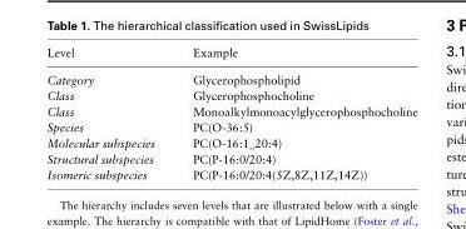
<table><thead><tr><td>Level</td><td>Example</td></tr></thead><tbody><tr><td>Category</td><td>Glycerophospholipid</td></tr><tr><td>Class</td><td>Glycerophosphocholine</td></tr><tr><td>Class</td><td>Monoalkylmonoacylglycerophosphocholine</td></tr><tr><td>Species</td><td>PC(O-36:5)</td></tr><tr><td>Molecular subspecies</td><td>PC(O-16:1_20:4)</td></tr><tr><td>Structural subspecies</td><td>PC(P-16:0/20:4)</td></tr><tr><td>Isomeric subspecies</td><td>PC(P-16:0/20:4(5Z,8Z,11Z,14Z))</td></tr></tbody></table>